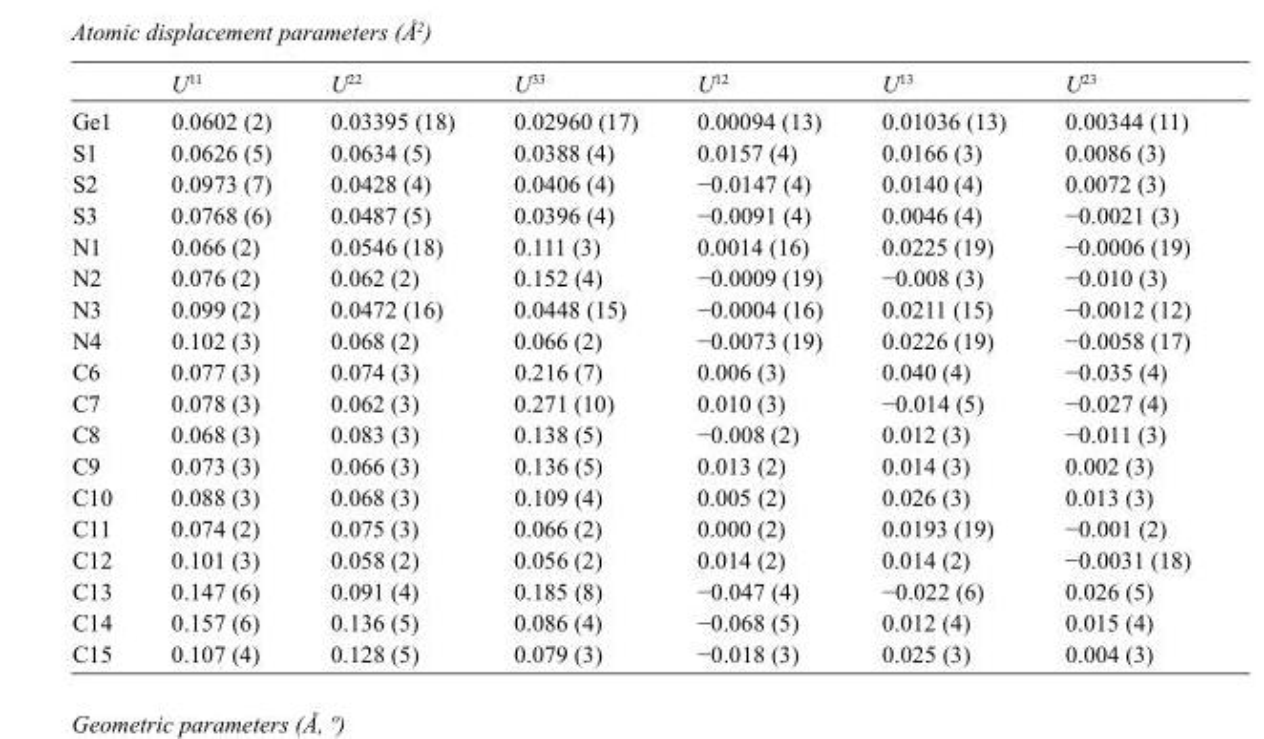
<table><thead><tr><td></td><td>U<sup>11</sup></td><td>U<sup>22</sup></td><td>U<sup>33</sup></td><td>U<sup>12</sup></td><td>U<sup>13</sup></td><td>U<sup>23</sup></td></tr></thead><tbody><tr><td>Ge1</td><td>0.0602 (2)</td><td>0.03395 (18)</td><td>0.02960 (17)</td><td>0.00094 (13)</td><td>0.01036 (13)</td><td>0.00344 (11)</td></tr><tr><td>S1</td><td>0.0626 (5)</td><td>0.0634 (5)</td><td>0.0388 (4)</td><td>0.0157 (4)</td><td>0.0166 (3)</td><td>0.0086 (3)</td></tr><tr><td>S2</td><td>0.0973 (7)</td><td>0.0428 (4)</td><td>0.0406 (4)</td><td>−0.0147 (4)</td><td>0.0140 (4)</td><td>0.0072 (3)</td></tr><tr><td>S3</td><td>0.0768 (6)</td><td>0.0487 (5)</td><td>0.0396 (4)</td><td>−0.0091 (4)</td><td>0.0046 (4)</td><td>−0.0021 (3)</td></tr><tr><td>N1</td><td>0.066 (2)</td><td>0.0546 (18)</td><td>0.111 (3)</td><td>0.0014 (16)</td><td>0.0225 (19)</td><td>−0.0006 (19)</td></tr><tr><td>N2</td><td>0.076 (2)</td><td>0.062 (2)</td><td>0.152 (4)</td><td>−0.0009 (19)</td><td>−0.008 (3)</td><td>−0.010 (3)</td></tr><tr><td>N3</td><td>0.099 (2)</td><td>0.0472 (16)</td><td>0.0448 (15)</td><td>−0.0004 (16)</td><td>0.0211 (15)</td><td>−0.0012 (12)</td></tr><tr><td>N4</td><td>0.102 (3)</td><td>0.068 (2)</td><td>0.066 (2)</td><td>−0.0073 (19)</td><td>0.0226 (19)</td><td>−0.0058 (17)</td></tr><tr><td>C6</td><td>0.077 (3)</td><td>0.074 (3)</td><td>0.216 (7)</td><td>0.006 (3)</td><td>0.040 (4)</td><td>−0.035 (4)</td></tr><tr><td>C7</td><td>0.078 (3)</td><td>0.062 (3)</td><td>0.271 (10)</td><td>0.010 (3)</td><td>−0.014 (5)</td><td>−0.027 (4)</td></tr><tr><td>C8</td><td>0.068 (3)</td><td>0.083 (3)</td><td>0.138 (5)</td><td>−0.008 (2)</td><td>0.012 (3)</td><td>−0.011 (3)</td></tr><tr><td>C9</td><td>0.073 (3)</td><td>0.066 (3)</td><td>0.136 (5)</td><td>0.013 (2)</td><td>0.014 (3)</td><td>0.002 (3)</td></tr><tr><td>C10</td><td>0.088 (3)</td><td>0.068 (3)</td><td>0.109 (4)</td><td>0.005 (2)</td><td>0.026 (3)</td><td>0.013 (3)</td></tr><tr><td>C11</td><td>0.074 (2)</td><td>0.075 (3)</td><td>0.066 (2)</td><td>0.000 (2)</td><td>0.0193 (19)</td><td>−0.001 (2)</td></tr><tr><td>C12</td><td>0.101 (3)</td><td>0.058 (2)</td><td>0.056 (2)</td><td>0.014 (2)</td><td>0.014 (2)</td><td>−0.0031 (18)</td></tr><tr><td>C13</td><td>0.147 (6)</td><td>0.091 (4)</td><td>0.185 (8)</td><td>−0.047 (4)</td><td>−0.022 (6)</td><td>0.026 (5)</td></tr><tr><td>C14</td><td>0.157 (6)</td><td>0.136 (5)</td><td>0.086 (4)</td><td>−0.068 (5)</td><td>0.012 (4)</td><td>0.015 (4)</td></tr><tr><td>C15</td><td>0.107 (4)</td><td>0.128 (5)</td><td>0.079 (3)</td><td>−0.018 (3)</td><td>0.025 (3)</td><td>0.004 (3)</td></tr></tbody></table>